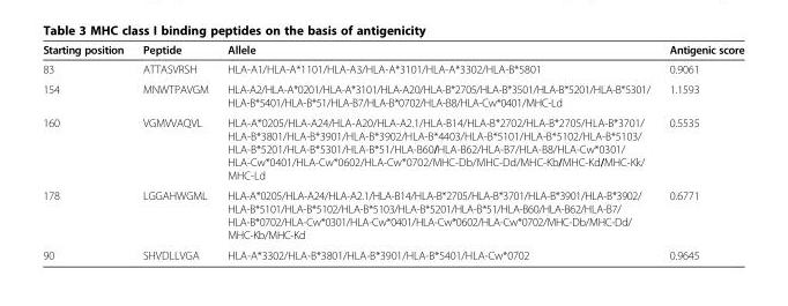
<table><thead><tr><td>Starting position</td><td>Peptide</td><td>Allele</td><td>Antigenic score</td></tr></thead><tbody><tr><td>83</td><td>ATTASVRSH</td><td>HLA-A1/HLA-A*1101/HLA-A3/HLA-A*3101/HLA-A*3302/HLA-B*5801</td><td>0.9061</td></tr><tr><td>154</td><td>MNWTPAVGM</td><td>HLA-A2/HLA-A*0201/HLA-A*3101/HLA-A20/HLA-B*2705/HLA-B*3501/HLA-B*5201/HLA-B*5301/ HLA-B*5401/HLA-B*51/HLA-B7/HLA-B*0702/HLA-B8/HLA-Cw*0401/MHC-Ld</td><td>1.1593</td></tr><tr><td>160</td><td>VGMVVAQVL</td><td>HLA-A*0205/HLA-A24/HLA-A20/HLA-A2.1/HLA-B14/HLA-B*2702/HLA-B*2705/HLA-B*3701/ HLA-B*3801/HLA-B*3901/HLA-B*3902/HLA-B*4403/HLA-B*5101/HLA-B*5102/HLA-B*5103/ HLA-B*5201/HLA-B*5301/HLA-B*51/HLA-B60/HLA-B62/HLA-B7/HLA-B8/HLA-Cw*0301/ HLA-Cw*0401/HLA-Cw*0602/HLA-Cw*0702/MHC-Db/MHC-Dd/MHC-Kb/MHC-Kd/MHC-Kk/ MHC-Ld</td><td>0.5535</td></tr><tr><td>178</td><td>LGGAHWGML</td><td>HLA-A*0205/HLA-A24/HLA-A2.1/HLA-B14/HLA-B*2705/HLA-B*3701/HLA-B*3901/HLA-B*3902/ HLA-B*5101/HLA-B*5102/HLA-B*5103/HLA-B*5201/HLA-B*51/HLA-B60/HLA-B62/HLA-B7/ HLA-B*0702/HLA-Cw*0301/HLA-Cw*0401/HLA-Cw*0602/HLA-Cw*0702/MHC-Db/MHC-Dd/ MHC-Kb/MHC-Kd</td><td>0.6771</td></tr><tr><td>90</td><td>SHVDLLVGA</td><td>HLA-A*3302/HLA-B*3801/HLA-B*3901/HLA-B*5401/HLA-Cw*0702</td><td>0.9645</td></tr></tbody></table>